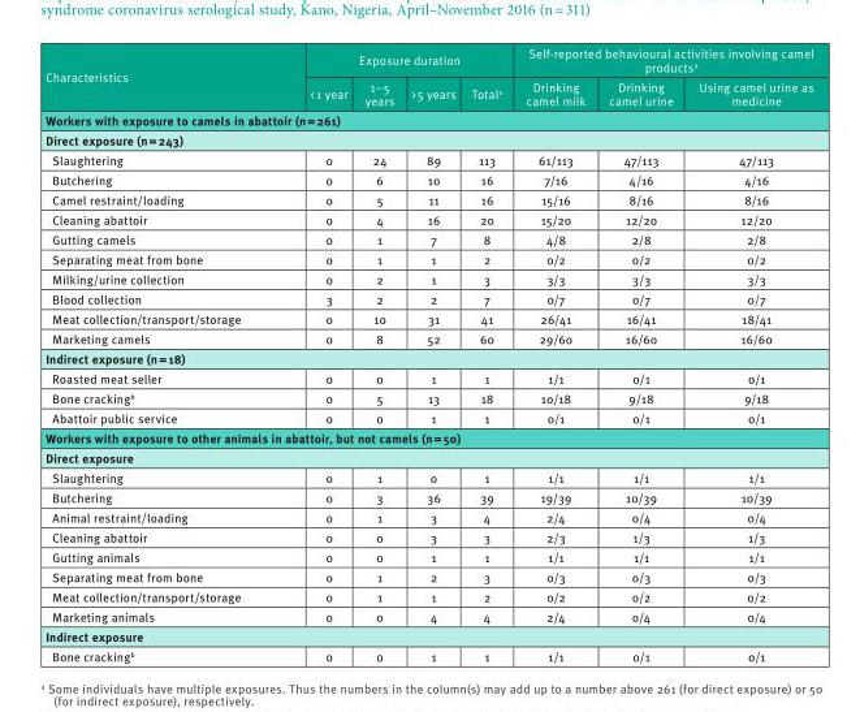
<table><thead><tr><td rowspan="2">Characteristics</td><td colspan="4">Exposure duration</td><td colspan="3">Self-reported behavioural activities involving camel products<sup>a</sup></td></tr><tr><td>&lt; 1 year</td><td>1–5 years</td><td>&gt; 5 years</td><td>Total<sup>a</sup></td><td>Drinking camel milk</td><td>Drinking camel urine</td><td>Using camel urine as medicine</td></tr></thead><tbody><tr><td colspan="8">Workers with exposure to camels in abattoir (n = 261)</td></tr><tr><td colspan="8">Direct exposure (n = 243)</td></tr><tr><td>Slaughtering</td><td>0</td><td>24</td><td>89</td><td>113</td><td>61/113</td><td>47/113</td><td>47/113</td></tr><tr><td>Butchering</td><td>0</td><td>6</td><td>10</td><td>16</td><td>7/16</td><td>4/16</td><td>4/16</td></tr><tr><td>Camel restraint/loading</td><td>0</td><td>5</td><td>11</td><td>16</td><td>15/16</td><td>8/16</td><td>8/16</td></tr><tr><td>Cleaning abattoir</td><td>0</td><td>4</td><td>16</td><td>20</td><td>15/20</td><td>12/20</td><td>12/20</td></tr><tr><td>Gutting camels</td><td>0</td><td>1</td><td>7</td><td>8</td><td>4/8</td><td>2/8</td><td>2/8</td></tr><tr><td>Separating meat from bone</td><td>0</td><td>1</td><td>1</td><td>2</td><td>0/2</td><td>0/2</td><td>0/2</td></tr><tr><td>Milking/urine collection</td><td>0</td><td>2</td><td>1</td><td>3</td><td>3/3</td><td>3/3</td><td>3/3</td></tr><tr><td>Blood collection</td><td>3</td><td>2</td><td>2</td><td>7</td><td>0/7</td><td>0/7</td><td>0/7</td></tr><tr><td>Meat collection/transport/storage</td><td>0</td><td>10</td><td>31</td><td>41</td><td>26/41</td><td>16/41</td><td>18/41</td></tr><tr><td>Marketing camels</td><td>0</td><td>8</td><td>52</td><td>60</td><td>29/60</td><td>16/60</td><td>16/60</td></tr><tr><td colspan="8">Indirect exposure (n = 18)</td></tr><tr><td>Roasted meat seller</td><td>0</td><td>0</td><td>1</td><td>1</td><td>1/1</td><td>0/1</td><td>0/1</td></tr><tr><td>Bone cracking<sup>b</sup></td><td>0</td><td>5</td><td>13</td><td>18</td><td>10/18</td><td>9/18</td><td>9/18</td></tr><tr><td>Abattoir public service</td><td>0</td><td>0</td><td>1</td><td>1</td><td>0/1</td><td>0/1</td><td>0/1</td></tr><tr><td colspan="8">Workers with exposure to other animals in abattoir, but not camels (n = 50)</td></tr><tr><td colspan="8">Direct exposure</td></tr><tr><td>Slaughtering</td><td>0</td><td>1</td><td>0</td><td>1</td><td>1/1</td><td>1/1</td><td>1/1</td></tr><tr><td>Butchering</td><td>0</td><td>3</td><td>36</td><td>39</td><td>19/39</td><td>10/39</td><td>10/39</td></tr><tr><td>Animal restraint/loading</td><td>0</td><td>1</td><td>3</td><td>4</td><td>2/4</td><td>0/4</td><td>0/4</td></tr><tr><td>Cleaning abattoir</td><td>0</td><td>0</td><td>3</td><td>3</td><td>2/3</td><td>1/3</td><td>1/3</td></tr><tr><td>Gutting animals</td><td>0</td><td>0</td><td>1</td><td>1</td><td>1/1</td><td>1/1</td><td>1/1</td></tr><tr><td>Separating meat from bone</td><td>0</td><td>1</td><td>2</td><td>3</td><td>0/3</td><td>0/3</td><td>0/3</td></tr><tr><td>Meat collection/transport/storage</td><td>0</td><td>1</td><td>1</td><td>2</td><td>0/2</td><td>0/2</td><td>0/2</td></tr><tr><td>Marketing animals</td><td>0</td><td>0</td><td>4</td><td>4</td><td>2/4</td><td>0/4</td><td>0/4</td></tr><tr><td colspan="8">Indirect exposure</td></tr><tr><td>Bone cracking<sup>b</sup></td><td>0</td><td>0</td><td>1</td><td>1</td><td>1/1</td><td>0/1</td><td>0/1</td></tr></tbody></table>